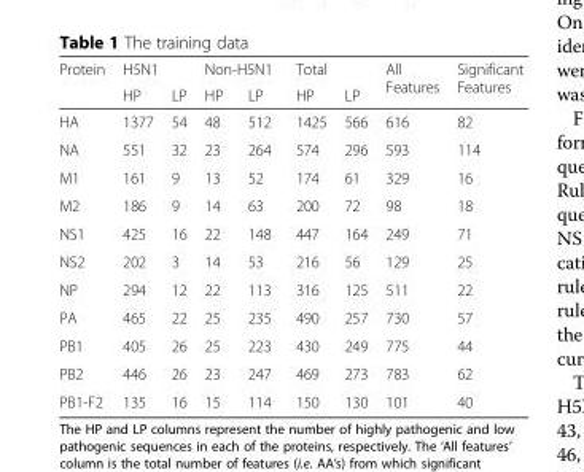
<table><thead><tr><td rowspan="2">Protein</td><td colspan="2">H5N1</td><td colspan="2">Non-H5N1</td><td colspan="2">Total</td><td rowspan="2">All Features</td><td rowspan="2">Significant Features</td></tr><tr><td>HP</td><td>LP</td><td>HP</td><td>LP</td><td>HP</td><td>LP</td></tr></thead><tbody><tr><td>HA</td><td>1377</td><td>54</td><td>48</td><td>512</td><td>1425</td><td>566</td><td>616</td><td>82</td></tr><tr><td>NA</td><td>551</td><td>32</td><td>23</td><td>264</td><td>574</td><td>296</td><td>593</td><td>114</td></tr><tr><td>M1</td><td>161</td><td>9</td><td>13</td><td>52</td><td>174</td><td>61</td><td>329</td><td>16</td></tr><tr><td>M2</td><td>186</td><td>9</td><td>14</td><td>63</td><td>200</td><td>72</td><td>98</td><td>18</td></tr><tr><td>NS1</td><td>425</td><td>16</td><td>22</td><td>148</td><td>447</td><td>164</td><td>249</td><td>71</td></tr><tr><td>NS2</td><td>202</td><td>3</td><td>14</td><td>53</td><td>216</td><td>56</td><td>129</td><td>25</td></tr><tr><td>NP</td><td>294</td><td>12</td><td>22</td><td>113</td><td>316</td><td>125</td><td>511</td><td>22</td></tr><tr><td>PA</td><td>465</td><td>22</td><td>25</td><td>235</td><td>490</td><td>257</td><td>730</td><td>57</td></tr><tr><td>PB1</td><td>405</td><td>26</td><td>25</td><td>223</td><td>430</td><td>249</td><td>775</td><td>44</td></tr><tr><td>PB2</td><td>446</td><td>26</td><td>23</td><td>247</td><td>469</td><td>273</td><td>783</td><td>62</td></tr><tr><td>PB1-F2</td><td>135</td><td>16</td><td>15</td><td>114</td><td>150</td><td>130</td><td>101</td><td>40</td></tr></tbody></table>